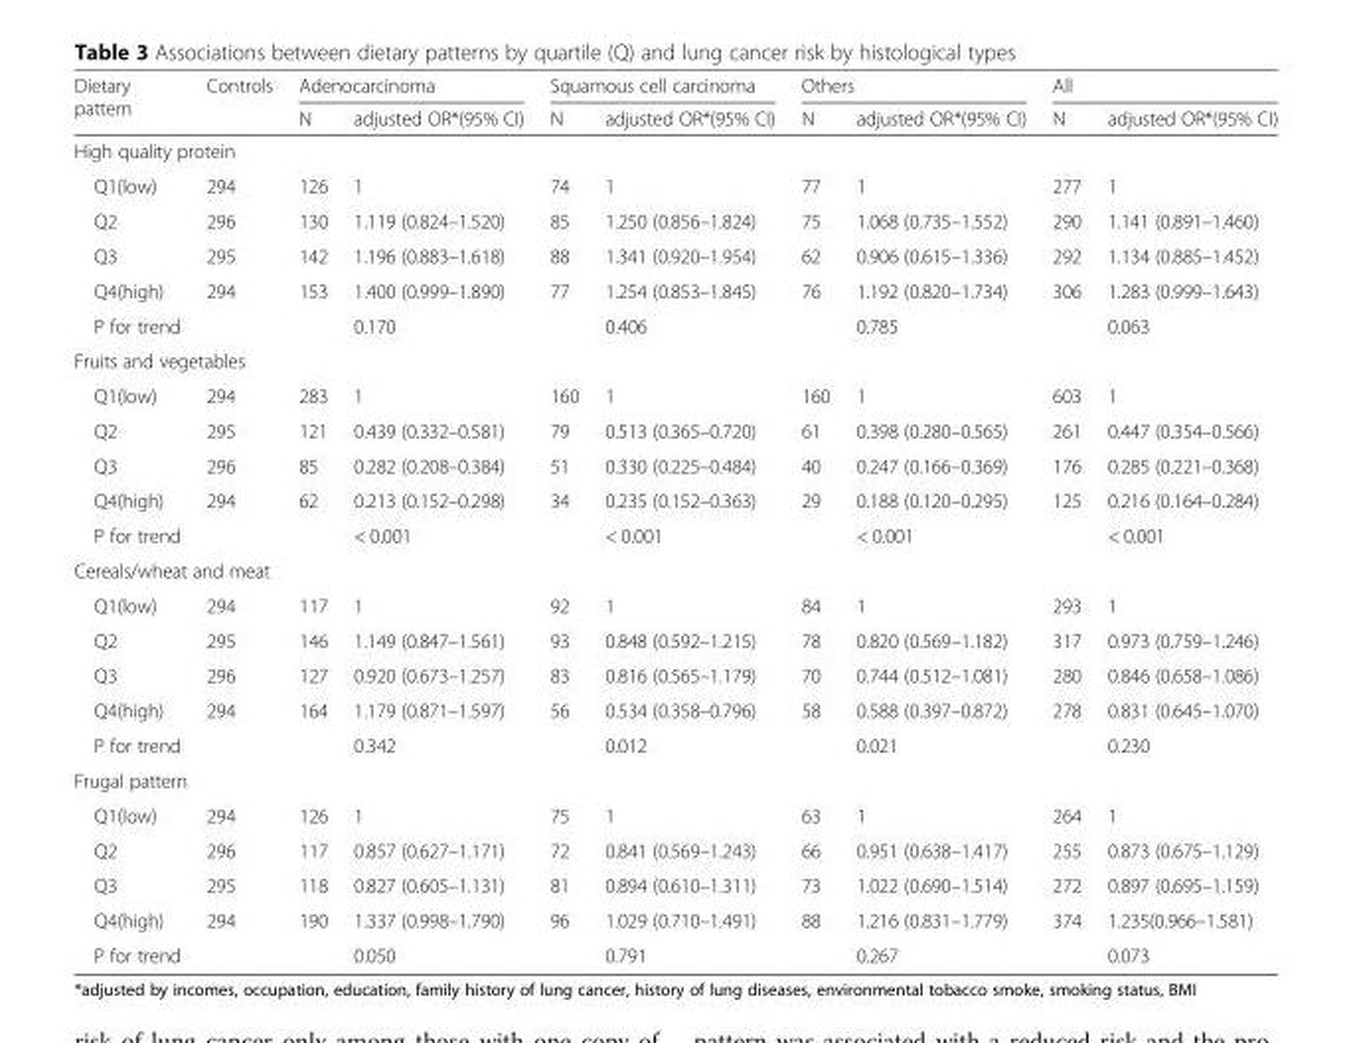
<table><thead><tr><td rowspan="2">Dietary pattern</td><td rowspan="2">Controls</td><td colspan="2">Adenocarcinoma</td><td colspan="2">Squamous cell carcinoma</td><td colspan="2">Others</td><td colspan="2">All</td></tr><tr><td>N</td><td>adjusted OR*(95% CI)</td><td>N</td><td>adjusted OR*(95% CI)</td><td>N</td><td>adjusted OR*(95% CI)</td><td>N</td><td>adjusted OR*(95% CI)</td></tr></thead><tbody><tr><td colspan="10">High quality protein</td></tr><tr><td>Q1(low)</td><td>294</td><td>126</td><td>1</td><td>74</td><td>1</td><td>77</td><td>1</td><td>277</td><td>1</td></tr><tr><td>Q2</td><td>296</td><td>130</td><td>1.119 (0.824–1.520)</td><td>85</td><td>1.250 (0.856–1.824)</td><td>75</td><td>1.068 (0.735–1.552)</td><td>290</td><td>1.141 (0.891–1.460)</td></tr><tr><td>Q3</td><td>295</td><td>142</td><td>1.196 (0.883–1.618)</td><td>88</td><td>1.341 (0.920–1.954)</td><td>62</td><td>0.906 (0.615–1.336)</td><td>292</td><td>1.134 (0.885–1.452)</td></tr><tr><td>Q4(high)</td><td>294</td><td>153</td><td>1.400 (0.999–1.890)</td><td>77</td><td>1.254 (0.853–1.845)</td><td>76</td><td>1.192 (0.820–1.734)</td><td>306</td><td>1.283 (0.999–1.643)</td></tr><tr><td>P for trend</td><td></td><td></td><td>0.170</td><td></td><td>0.406</td><td></td><td>0.785</td><td></td><td>0.063</td></tr><tr><td colspan="10">Fruits and vegetables</td></tr><tr><td>Q1(low)</td><td>294</td><td>283</td><td>1</td><td>160</td><td>1</td><td>160</td><td>1</td><td>603</td><td>1</td></tr><tr><td>Q2</td><td>295</td><td>121</td><td>0.439 (0.332–0.581)</td><td>79</td><td>0.513 (0.365–0.720)</td><td>61</td><td>0.398 (0.280–0.565)</td><td>261</td><td>0.447 (0.354–0.566)</td></tr><tr><td>Q3</td><td>296</td><td>85</td><td>0.282 (0.208–0.384)</td><td>51</td><td>0.330 (0.225–0.484)</td><td>40</td><td>0.247 (0.166–0.369)</td><td>176</td><td>0.285 (0.221–0.368)</td></tr><tr><td>Q4(high)</td><td>294</td><td>62</td><td>0.213 (0.152–0.298)</td><td>34</td><td>0.235 (0.152–0.363)</td><td>29</td><td>0.188 (0.120–0.295)</td><td>125</td><td>0.216 (0.164–0.284)</td></tr><tr><td>P for trend</td><td></td><td></td><td>&lt; 0.001</td><td></td><td>&lt; 0.001</td><td></td><td>&lt; 0.001</td><td></td><td>&lt; 0.001</td></tr><tr><td colspan="10">Cereals/wheat and meat</td></tr><tr><td>Q1(low)</td><td>294</td><td>117</td><td>1</td><td>92</td><td>1</td><td>84</td><td>1</td><td>293</td><td>1</td></tr><tr><td>Q2</td><td>295</td><td>146</td><td>1.149 (0.847–1.561)</td><td>93</td><td>0.848 (0.592–1.215)</td><td>78</td><td>0.820 (0.569–1.182)</td><td>317</td><td>0.973 (0.759–1.246)</td></tr><tr><td>Q3</td><td>296</td><td>127</td><td>0.920 (0.673–1.257)</td><td>83</td><td>0.816 (0.565–1.179)</td><td>70</td><td>0.744 (0.512–1.081)</td><td>280</td><td>0.846 (0.658–1.086)</td></tr><tr><td>Q4(high)</td><td>294</td><td>164</td><td>1.179 (0.871–1.597)</td><td>56</td><td>0.534 (0.358–0.796)</td><td>58</td><td>0.588 (0.397–0.872)</td><td>278</td><td>0.831 (0.645–1.070)</td></tr><tr><td>P for trend</td><td></td><td></td><td>0.342</td><td></td><td>0.012</td><td></td><td>0.021</td><td></td><td>0.230</td></tr><tr><td colspan="10">Frugal pattern</td></tr><tr><td>Q1(low)</td><td>294</td><td>126</td><td>1</td><td>75</td><td>1</td><td>63</td><td>1</td><td>264</td><td>1</td></tr><tr><td>Q2</td><td>296</td><td>117</td><td>0.857 (0.627–1.171)</td><td>72</td><td>0.841 (0.569–1.243)</td><td>66</td><td>0.951 (0.638–1.417)</td><td>255</td><td>0.873 (0.675–1.129)</td></tr><tr><td>Q3</td><td>295</td><td>118</td><td>0.827 (0.605–1.131)</td><td>81</td><td>0.894 (0.610–1.311)</td><td>73</td><td>1.022 (0.690–1.514)</td><td>272</td><td>0.897 (0.695–1.159)</td></tr><tr><td>Q4(high)</td><td>294</td><td>190</td><td>1.337 (0.998–1.790)</td><td>96</td><td>1.029 (0.710–1.491)</td><td>88</td><td>1.216 (0.831–1.779)</td><td>374</td><td>1.235(0.966–1.581)</td></tr><tr><td>P for trend</td><td></td><td></td><td>0.050</td><td></td><td>0.791</td><td></td><td>0.267</td><td></td><td>0.073</td></tr></tbody></table>